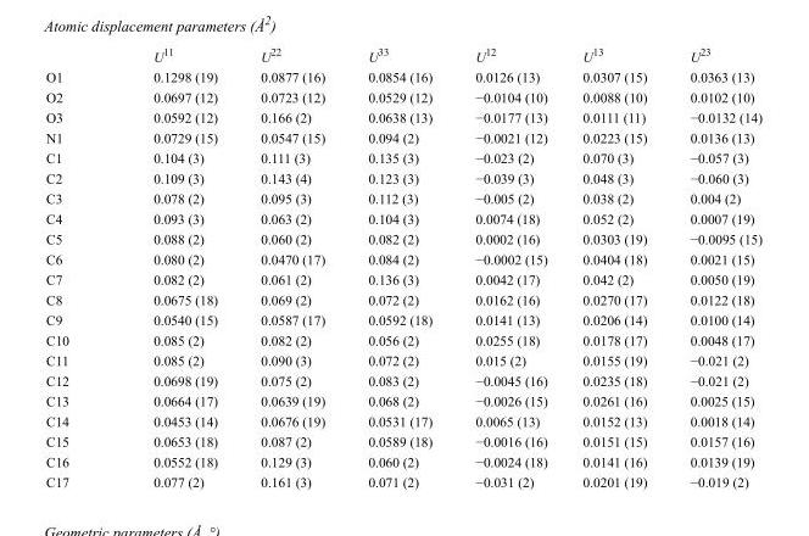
<table><thead><tr><td></td><td>U<sup>11</sup></td><td>U<sup>22</sup></td><td>U<sup>33</sup></td><td>U<sup>12</sup></td><td>U<sup>13</sup></td><td>U<sup>23</sup></td></tr></thead><tbody><tr><td>O1</td><td>0.1298 (19)</td><td>0.0877 (16)</td><td>0.0854 (16)</td><td>0.0126 (13)</td><td>0.0307 (15)</td><td>0.0363 (13)</td></tr><tr><td>O2</td><td>0.0697 (12)</td><td>0.0723 (12)</td><td>0.0529 (12)</td><td>−0.0104 (10)</td><td>0.0088 (10)</td><td>0.0102 (10)</td></tr><tr><td>O3</td><td>0.0592 (12)</td><td>0.166 (2)</td><td>0.0638 (13)</td><td>−0.0177 (13)</td><td>0.0111 (11)</td><td>−0.0132 (14)</td></tr><tr><td>N1</td><td>0.0729 (15)</td><td>0.0547 (15)</td><td>0.094 (2)</td><td>−0.0021 (12)</td><td>0.0223 (15)</td><td>0.0136 (13)</td></tr><tr><td>C1</td><td>0.104 (3)</td><td>0.111 (3)</td><td>0.135 (3)</td><td>−0.023 (2)</td><td>0.070 (3)</td><td>−0.057 (3)</td></tr><tr><td>C2</td><td>0.109 (3)</td><td>0.143 (4)</td><td>0.123 (3)</td><td>−0.039 (3)</td><td>0.048 (3)</td><td>−0.060 (3)</td></tr><tr><td>C3</td><td>0.078 (2)</td><td>0.095 (3)</td><td>0.112 (3)</td><td>−0.005 (2)</td><td>0.038 (2)</td><td>0.004 (2)</td></tr><tr><td>C4</td><td>0.093 (3)</td><td>0.063 (2)</td><td>0.104 (3)</td><td>0.0074 (18)</td><td>0.052 (2)</td><td>0.0007 (19)</td></tr><tr><td>C5</td><td>0.088 (2)</td><td>0.060 (2)</td><td>0.082 (2)</td><td>0.0002 (16)</td><td>0.0303 (19)</td><td>−0.0095 (15)</td></tr><tr><td>C6</td><td>0.080 (2)</td><td>0.0470 (17)</td><td>0.084 (2)</td><td>−0.0002 (15)</td><td>0.0404 (18)</td><td>0.0021 (15)</td></tr><tr><td>C7</td><td>0.082 (2)</td><td>0.061 (2)</td><td>0.136 (3)</td><td>0.0042 (17)</td><td>0.042 (2)</td><td>0.0050 (19)</td></tr><tr><td>C8</td><td>0.0675 (18)</td><td>0.069 (2)</td><td>0.072 (2)</td><td>0.0162 (16)</td><td>0.0270 (17)</td><td>0.0122 (18)</td></tr><tr><td>C9</td><td>0.0540 (15)</td><td>0.0587 (17)</td><td>0.0592 (18)</td><td>0.0141 (13)</td><td>0.0206 (14)</td><td>0.0100 (14)</td></tr><tr><td>C10</td><td>0.085 (2)</td><td>0.082 (2)</td><td>0.056 (2)</td><td>0.0255 (18)</td><td>0.0178 (17)</td><td>0.0048 (17)</td></tr><tr><td>C11</td><td>0.085 (2)</td><td>0.090 (3)</td><td>0.072 (2)</td><td>0.015 (2)</td><td>0.0155 (19)</td><td>−0.021 (2)</td></tr><tr><td>C12</td><td>0.0698 (19)</td><td>0.075 (2)</td><td>0.083 (2)</td><td>−0.0045 (16)</td><td>0.0235 (18)</td><td>−0.021 (2)</td></tr><tr><td>C13</td><td>0.0664 (17)</td><td>0.0639 (19)</td><td>0.068 (2)</td><td>−0.0026 (15)</td><td>0.0261 (16)</td><td>0.0025 (15)</td></tr><tr><td>C14</td><td>0.0453 (14)</td><td>0.0676 (19)</td><td>0.0531 (17)</td><td>0.0065 (13)</td><td>0.0152 (13)</td><td>0.0018 (14)</td></tr><tr><td>C15</td><td>0.0653 (18)</td><td>0.087 (2)</td><td>0.0589 (18)</td><td>−0.0016 (16)</td><td>0.0151 (15)</td><td>0.0157 (16)</td></tr><tr><td>C16</td><td>0.0552 (18)</td><td>0.129 (3)</td><td>0.060 (2)</td><td>−0.0024 (18)</td><td>0.0141 (16)</td><td>0.0139 (19)</td></tr><tr><td>C17</td><td>0.077 (2)</td><td>0.161 (3)</td><td>0.071 (2)</td><td>−0.031 (2)</td><td>0.0201 (19)</td><td>−0.019 (2)</td></tr></tbody></table>